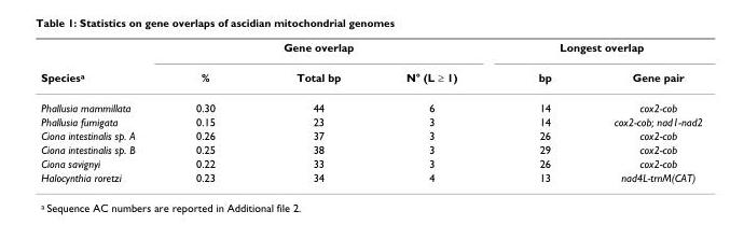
<table><thead><tr><td rowspan="2">Species<sup>a</sup></td><td colspan="3">Gene overlap</td><td colspan="2">Longest overlap</td></tr><tr><td>%</td><td>Total bp</td><td>N° (L ≥ 1)</td><td>bp</td><td>Gene pair</td></tr></thead><tbody><tr><td>Phallusia mammillata</td><td>0.30</td><td>44</td><td>6</td><td>14</td><td>cox2-cob</td></tr><tr><td>Phallusia fumigata</td><td>0.15</td><td>23</td><td>3</td><td>14</td><td>cox2-cob; nad1-nad2</td></tr><tr><td>Ciona intestinalis sp. A</td><td>0.26</td><td>37</td><td>3</td><td>26</td><td>cox2-cob</td></tr><tr><td>Ciona intestinalis sp. B</td><td>0.25</td><td>38</td><td>3</td><td>29</td><td>cox2-cob</td></tr><tr><td>Ciona savignyi</td><td>0.22</td><td>33</td><td>3</td><td>26</td><td>cox2-cob</td></tr><tr><td>Halocynthia roretzi</td><td>0.23</td><td>34</td><td>4</td><td>13</td><td>nad4L-trnM(CAT)</td></tr></tbody></table>